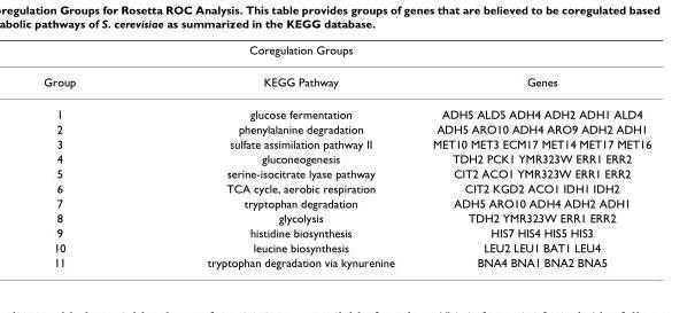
<table><thead><tr><td colspan="3">Coregulation Groups</td></tr><tr><td>Group</td><td>KEGG Pathway</td><td>Genes</td></tr></thead><tbody><tr><td>1</td><td>glucose fermentation</td><td>ADH5 ALD5 ADH4 ADH2 ADH1 ALD4</td></tr><tr><td>2</td><td>phenylalanine degradation</td><td>ADH5 ARO10 ADH4 ARO9 ADH2 ADH1</td></tr><tr><td>3</td><td>sulfate assimilation pathway II</td><td>MET10 MET3 ECM17 MET14 MET17 MET16</td></tr><tr><td>4</td><td>gluconeogenesis</td><td>TDH2 PCK1 YMR323W ERR1 ERR2</td></tr><tr><td>5</td><td>serine-isocitrate lyase pathway</td><td>CIT2 ACO1 YMR323W ERR1 ERR2</td></tr><tr><td>6</td><td>TCA cycle, aerobic respiration</td><td>CIT2 KGD2 ACO1 IDH1 IDH2</td></tr><tr><td>7</td><td>tryptophan degradation</td><td>ADH5 ARO10 ADH4 ADH2 ADH1</td></tr><tr><td>8</td><td>glycolysis</td><td>TDH2 YMR323W ERR1 ERR2</td></tr><tr><td>9</td><td>histidine biosynthesis</td><td>HIS7 HIS4 HIS5 HIS3</td></tr><tr><td>10</td><td>leucine biosynthesis</td><td>LEU2 LEU1 BAT1 LEU4</td></tr><tr><td>11</td><td>tryptophan degradation via kynurenine</td><td>BNA4 BNA1 BNA2 BNA5</td></tr></tbody></table>